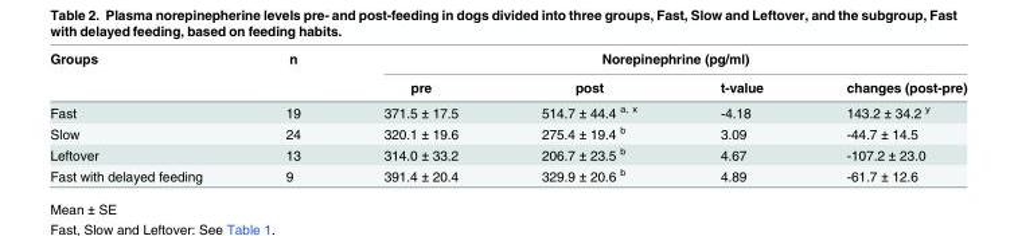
<table><thead><tr><td rowspan="2">Groups</td><td rowspan="2">n</td><td colspan="4">Norepinephrine (pg/ml)</td></tr><tr><td>pre</td><td>post</td><td>t-value</td><td>changes (post-pre)</td></tr></thead><tbody><tr><td>Fast</td><td>19</td><td>371.5 ± 17.5</td><td>514.7 ± 44.4 <sup>a, x</sup></td><td>-4.18</td><td>143.2 ± 34.2 <sup>y</sup></td></tr><tr><td>Slow</td><td>24</td><td>320.1 ± 19.6</td><td>275.4 ± 19.4 <sup>b</sup></td><td>3.09</td><td>-44.7 ± 14.5</td></tr><tr><td>Leftover</td><td>13</td><td>314.0 ± 33.2</td><td>206.7 ± 23.5 <sup>b</sup></td><td>4.67</td><td>-107.2 ± 23.0</td></tr><tr><td>Fast with delayed feeding</td><td>9</td><td>391.4 ± 20.4</td><td>329.9 ± 20.6 <sup>b</sup></td><td>4.89</td><td>-61.7 ± 12.6</td></tr></tbody></table>